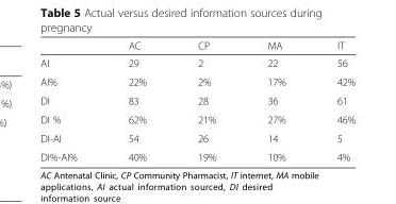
<table><thead><tr><td></td><td>AC</td><td>CP</td><td>MA</td><td>IT</td></tr></thead><tbody><tr><td>AI</td><td>29</td><td>2</td><td>22</td><td>56</td></tr><tr><td>AI%</td><td>22%</td><td>2%</td><td>17%</td><td>42%</td></tr><tr><td>DI</td><td>83</td><td>28</td><td>36</td><td>61</td></tr><tr><td>DI %</td><td>62%</td><td>21%</td><td>27%</td><td>46%</td></tr><tr><td>DI-AI</td><td>54</td><td>26</td><td>14</td><td>5</td></tr><tr><td>DI%-AI%</td><td>40%</td><td>19%</td><td>10%</td><td>4%</td></tr></tbody></table>